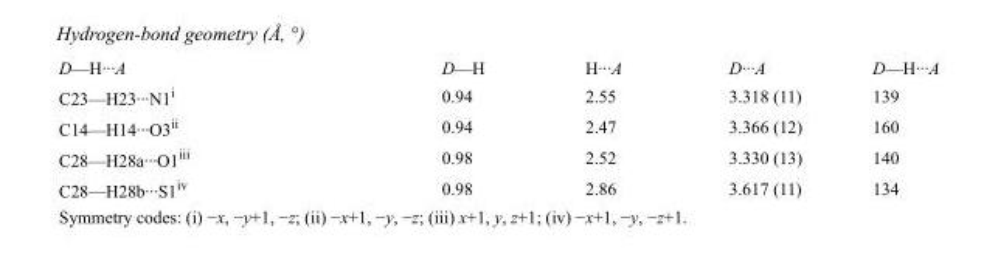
<table><tbody><tr><td>D—H···A</td><td>D—H</td><td>H···A</td><td>D···A</td><td>D—H···A</td></tr><tr><td>C23—H23···N1<sup>i</sup></td><td>0.94</td><td>2.55</td><td>3.318 (11)</td><td>139</td></tr><tr><td>C14—H14···O3<sup>ii</sup></td><td>0.94</td><td>2.47</td><td>3.366 (12)</td><td>160</td></tr><tr><td>C28—H28a···O1<sup>iii</sup></td><td>0.98</td><td>2.52</td><td>3.330 (13)</td><td>140</td></tr><tr><td>C28—H28b···S1<sup>iv</sup></td><td>0.98</td><td>2.86</td><td>3.617 (11)</td><td>134</td></tr></tbody></table>